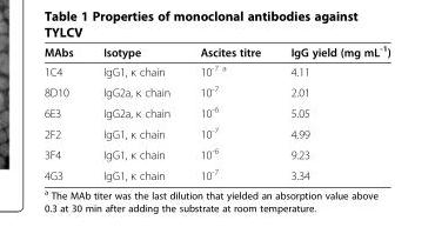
<table><thead><tr><td>MAbs</td><td>Isotype</td><td>Ascites titre</td><td>IgG yield (mg mL<sup>-1</sup>)</td></tr></thead><tbody><tr><td>1C4</td><td>IgG1, κ chain</td><td>10<sup>-7 a</sup></td><td>4.11</td></tr><tr><td>8D10</td><td>IgG2a, κ chain</td><td>10<sup>-7</sup></td><td>2.01</td></tr><tr><td>6E3</td><td>IgG2a, κ chain</td><td>10<sup>-6</sup></td><td>5.05</td></tr><tr><td>2F2</td><td>IgG1, κ chain</td><td>10<sup>-7</sup></td><td>4.99</td></tr><tr><td>3F4</td><td>IgG1, κ chain</td><td>10<sup>-6</sup></td><td>9.23</td></tr><tr><td>4G3</td><td>IgG1, κ chain</td><td>10<sup>-7</sup></td><td>3.34</td></tr></tbody></table>